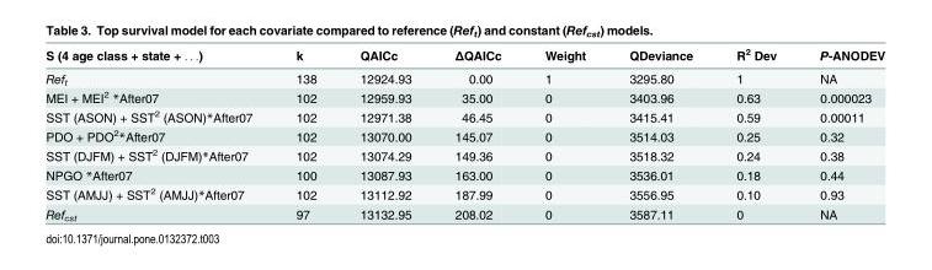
<table><thead><tr><td>S (4 age class + state + . . .)</td><td>k</td><td>QAICc</td><td>ΔQAICc</td><td>Weight</td><td>QDeviance</td><td>R<sup>2</sup> Dev</td><td>P-ANODEV</td></tr></thead><tbody><tr><td>Ref<sub>t</sub></td><td>138</td><td>12924.93</td><td>0.00</td><td>1</td><td>3295.80</td><td>1</td><td>NA</td></tr><tr><td>MEI + MEI<sup>2</sup> *After07</td><td>102</td><td>12959.93</td><td>35.00</td><td>0</td><td>3403.96</td><td>0.63</td><td>0.000023</td></tr><tr><td>SST (ASON) + SST<sup>2</sup> (ASON)*After07</td><td>102</td><td>12971.38</td><td>46.45</td><td>0</td><td>3415.41</td><td>0.59</td><td>0.00011</td></tr><tr><td>PDO + PDO<sup>2</sup>*After07</td><td>102</td><td>13070.00</td><td>145.07</td><td>0</td><td>3514.03</td><td>0.25</td><td>0.32</td></tr><tr><td>SST (DJFM) + SST<sup>2</sup> (DJFM)*After07</td><td>102</td><td>13074.29</td><td>149.36</td><td>0</td><td>3518.32</td><td>0.24</td><td>0.38</td></tr><tr><td>NPGO *After07</td><td>100</td><td>13087.93</td><td>163.00</td><td>0</td><td>3536.01</td><td>0.18</td><td>0.44</td></tr><tr><td>SST (AMJJ) + SST<sup>2</sup> (AMJJ)*After07</td><td>102</td><td>13112.92</td><td>187.99</td><td>0</td><td>3556.95</td><td>0.10</td><td>0.93</td></tr><tr><td>Ref<sub>cst</sub></td><td>97</td><td>13132.95</td><td>208.02</td><td>0</td><td>3587.11</td><td>0</td><td>NA</td></tr></tbody></table>